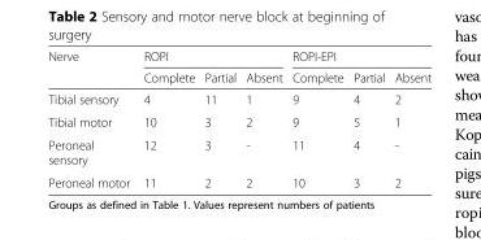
<table><thead><tr><td rowspan="2">Nerve</td><td colspan="3">ROPI</td><td colspan="3">ROPI-EPI</td></tr><tr><td>Complete</td><td>Partial</td><td>Absent</td><td>Complete</td><td>Partial</td><td>Absent</td></tr></thead><tbody><tr><td>Tibial sensory</td><td>4</td><td>11</td><td>1</td><td>9</td><td>4</td><td>2</td></tr><tr><td>Tibial motor</td><td>10</td><td>3</td><td>2</td><td>9</td><td>5</td><td>1</td></tr><tr><td>Peroneal sensory</td><td>12</td><td>3</td><td>-</td><td>11</td><td>4</td><td>-</td></tr><tr><td>Peroneal motor</td><td>11</td><td>2</td><td>2</td><td>10</td><td>3</td><td>2</td></tr></tbody></table>